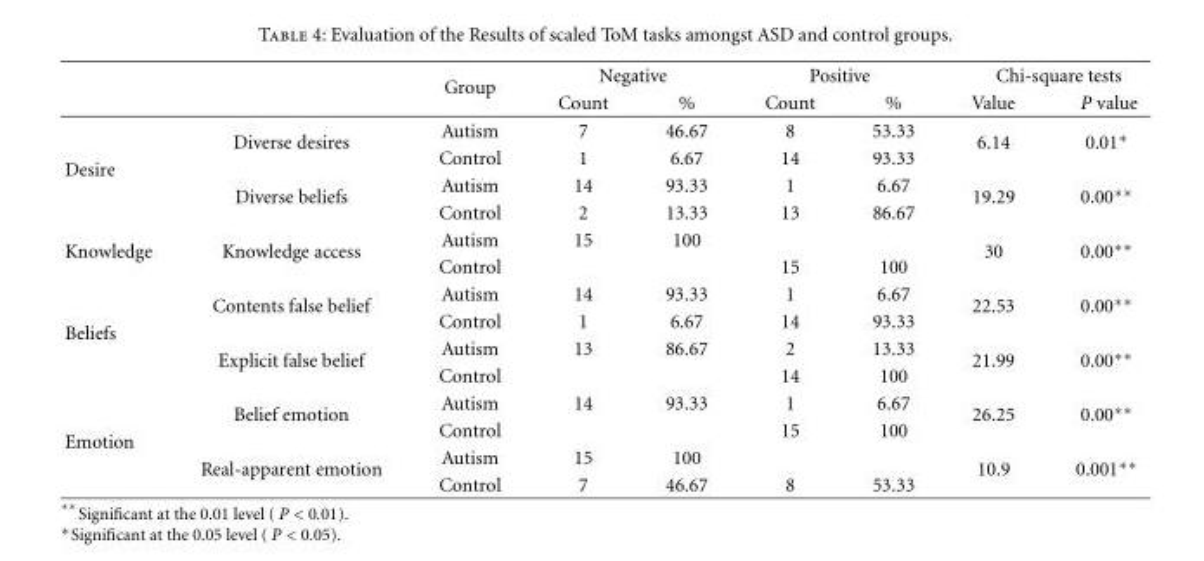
<table><thead><tr><td rowspan="2"></td><td rowspan="2"></td><td rowspan="2">Group</td><td colspan="2">Negative</td><td colspan="2">Positive</td><td colspan="2">Chi-square tests</td></tr><tr><td>Count</td><td>%</td><td>Count</td><td>%</td><td>Value</td><td>P value</td></tr></thead><tbody><tr><td rowspan="4">Desire</td><td rowspan="2">Diverse desires</td><td>Autism</td><td>7</td><td>46.67</td><td>8</td><td>53.33</td><td rowspan="2">6.14</td><td rowspan="2">0.01∗</td></tr><tr><td>Control</td><td>1</td><td>6.67</td><td>14</td><td>93.33</td></tr><tr><td rowspan="2">Diverse beliefs</td><td>Autism</td><td>14</td><td>93.33</td><td>1</td><td>6.67</td><td rowspan="2">19.29</td><td rowspan="2">0.00∗∗</td></tr><tr><td>Control</td><td>2</td><td>13.33</td><td>13</td><td>86.67</td></tr><tr><td rowspan="2">Knowledge</td><td rowspan="2">Knowledge access</td><td>Autism</td><td>15</td><td>100</td><td></td><td></td><td rowspan="2">30</td><td rowspan="2">0.00∗∗</td></tr><tr><td>Control</td><td></td><td></td><td>15</td><td>100</td></tr><tr><td rowspan="4">Beliefs</td><td rowspan="2">Contents false belief</td><td>Autism</td><td>14</td><td>93.33</td><td>1</td><td>6.67</td><td rowspan="2">22.53</td><td rowspan="2">0.00∗∗</td></tr><tr><td>Control</td><td>1</td><td>6.67</td><td>14</td><td>93.33</td></tr><tr><td rowspan="2">Explicit false belief</td><td>Autism</td><td>13</td><td>86.67</td><td>2</td><td>13.33</td><td rowspan="2">21.99</td><td rowspan="2">0.00∗∗</td></tr><tr><td>Control</td><td></td><td></td><td>14</td><td>100</td></tr><tr><td rowspan="4">Emotion</td><td rowspan="2">Belief emotion</td><td>Autism</td><td>14</td><td>93.33</td><td>1</td><td>6.67</td><td rowspan="2">26.25</td><td rowspan="2">0.00∗∗</td></tr><tr><td>Control</td><td></td><td></td><td>15</td><td>100</td></tr><tr><td rowspan="2">Real-apparent emotion</td><td>Autism</td><td>15</td><td>100</td><td></td><td></td><td rowspan="2">10.9</td><td rowspan="2">0.001∗∗</td></tr><tr><td>Control</td><td>7</td><td>46.67</td><td>8</td><td>53.33</td></tr></tbody></table>